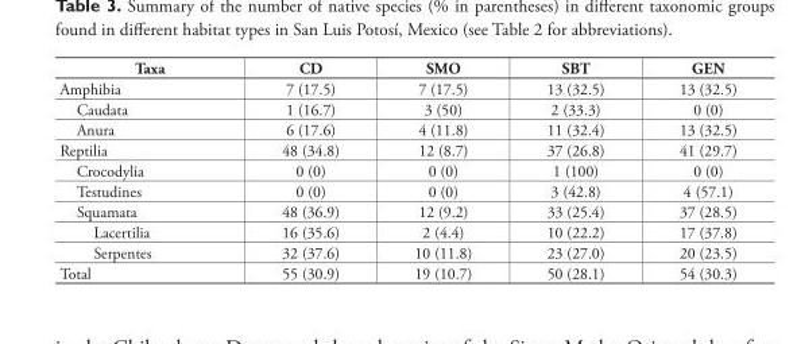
<table><thead><tr><td>Taxa</td><td>CD</td><td>SMO</td><td>SBT</td><td>GEN</td></tr></thead><tbody><tr><td>Amphibia</td><td>7 (17.5)</td><td>7 (17.5)</td><td>13 (32.5)</td><td>13 (32.5)</td></tr><tr><td>Caudata</td><td>1 (16.7)</td><td>3 (50)</td><td>2 (33.3)</td><td>0 (0)</td></tr><tr><td>Anura</td><td>6 (17.6)</td><td>4 (11.8)</td><td>11 (32.4)</td><td>13 (32.5)</td></tr><tr><td>Reptilia</td><td>48 (34.8)</td><td>12 (8.7)</td><td>37 (26.8)</td><td>41 (29.7)</td></tr><tr><td>Crocodylia</td><td>0 (0)</td><td>0 (0)</td><td>1 (100)</td><td>0 (0)</td></tr><tr><td>Testudines</td><td>0 (0)</td><td>0 (0)</td><td>3 (42.8)</td><td>4 (57.1)</td></tr><tr><td>Squamata</td><td>48 (36.9)</td><td>12 (9.2)</td><td>33 (25.4)</td><td>37 (28.5)</td></tr><tr><td>Lacertilia</td><td>16 (35.6)</td><td>2 (4.4)</td><td>10 (22.2)</td><td>17 (37.8)</td></tr><tr><td>Serpentes</td><td>32 (37.6)</td><td>10 (11.8)</td><td>23 (27.0)</td><td>20 (23.5)</td></tr><tr><td>Total</td><td>55 (30.9)</td><td>19 (10.7)</td><td>50 (28.1)</td><td>54 (30.3)</td></tr></tbody></table>